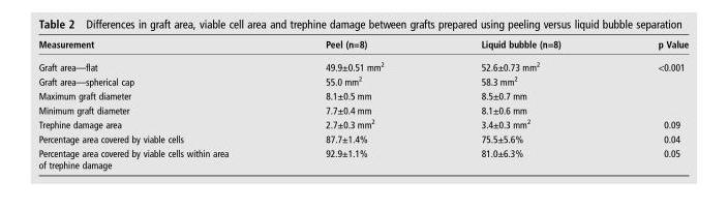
<table><thead><tr><td>Measurement</td><td>Peel (n=8)</td><td>Liquid bubble (n=8)</td><td>p Value</td></tr></thead><tbody><tr><td>Graft area—flat</td><td>49.9±0.51 mm<sup>2</sup></td><td>52.6±0.73 mm<sup>2</sup></td><td>&lt;0.001</td></tr><tr><td>Graft area—spherical cap</td><td>55.0 mm<sup>2</sup></td><td>58.3 mm<sup>2</sup></td><td></td></tr><tr><td>Maximum graft diameter</td><td>8.1±0.5 mm</td><td>8.5±0.7 mm</td><td></td></tr><tr><td>Minimum graft diameter</td><td>7.7±0.4 mm</td><td>8.1±0.6 mm</td><td></td></tr><tr><td>Trephine damage area</td><td>2.7±0.3 mm<sup>2</sup></td><td>3.4±0.3 mm<sup>2</sup></td><td>0.09</td></tr><tr><td>Percentage area covered by viable cells</td><td>87.7±1.4%</td><td>75.5±5.6%</td><td>0.04</td></tr><tr><td>Percentage area covered by viable cells within area of trephine damage</td><td>92.9±1.1%</td><td>81.0±6.3%</td><td>0.05</td></tr></tbody></table>